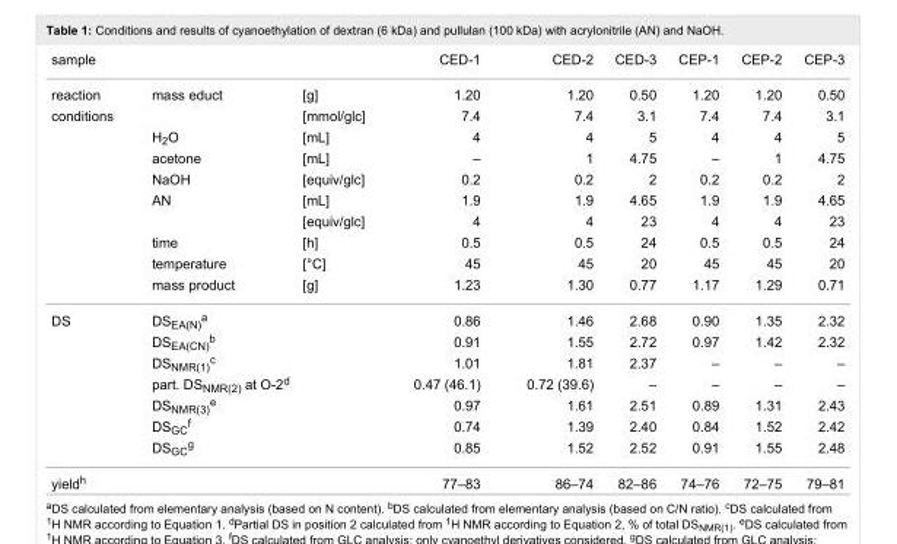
<table><tbody><tr><td>sample</td><td colspan="2"></td><td>CED-1</td><td>CED-2</td><td>CED-3</td><td>CEP-1</td><td>CEP-2</td><td>CEP-3</td></tr><tr><td>reaction</td><td>mass educt</td><td>[g]</td><td>1.20</td><td>1.20</td><td>0.50</td><td>1.20</td><td>1.20</td><td>0.50</td></tr><tr><td rowspan="9">conditions</td><td></td><td>[mmol/glc]</td><td>7.4</td><td>7.4</td><td>3.1</td><td>7.4</td><td>7.4</td><td>3.1</td></tr><tr><td>H<sub>2</sub>O</td><td>[mL]</td><td>4</td><td>4</td><td>5</td><td>4</td><td>4</td><td>5</td></tr><tr><td>acetone</td><td>[mL]</td><td>–</td><td>1</td><td>4.75</td><td>–</td><td>1</td><td>4.75</td></tr><tr><td>NaOH</td><td>[equiv/glc]</td><td>0.2</td><td>0.2</td><td>2</td><td>0.2</td><td>0.2</td><td>2</td></tr><tr><td>AN</td><td>[mL]</td><td>1.9</td><td>1.9</td><td>4.65</td><td>1.9</td><td>1.9</td><td>4.65</td></tr><tr><td></td><td>[equiv/glc]</td><td>4</td><td>4</td><td>23</td><td>4</td><td>4</td><td>23</td></tr><tr><td>time</td><td>[h]</td><td>0.5</td><td>0.5</td><td>24</td><td>0.5</td><td>0.5</td><td>24</td></tr><tr><td>temperature</td><td>[°C]</td><td>45</td><td>45</td><td>20</td><td>45</td><td>45</td><td>20</td></tr><tr><td>mass product</td><td>[g]</td><td>1.23</td><td>1.30</td><td>0.77</td><td>1.17</td><td>1.29</td><td>0.71</td></tr><tr><td rowspan="7">DS</td><td>DS<sub>EA(N)</sub><sup>a</sup></td><td></td><td>0.86</td><td>1.46</td><td>2.68</td><td>0.90</td><td>1.35</td><td>2.32</td></tr><tr><td>DS<sub>EA(CN)</sub><sup>b</sup></td><td></td><td>0.91</td><td>1.55</td><td>2.72</td><td>0.97</td><td>1.42</td><td>2.32</td></tr><tr><td>DS<sub>NMR(1)</sub><sup>c</sup></td><td></td><td>1.01</td><td>1.81</td><td>2.37</td><td>–</td><td>–</td><td>–</td></tr><tr><td>part. DS<sub>NMR(2)</sub> at O-2<sup>d</sup></td><td></td><td>0.47 (46.1)</td><td>0.72 (39.6)</td><td>–</td><td>–</td><td>–</td><td>–</td></tr><tr><td>DS<sub>NMR(3)</sub><sup>e</sup></td><td></td><td>0.97</td><td>1.61</td><td>2.51</td><td>0.89</td><td>1.31</td><td>2.43</td></tr><tr><td>DS<sub>GC</sub><sup>f</sup></td><td></td><td>0.74</td><td>1.39</td><td>2.40</td><td>0.84</td><td>1.52</td><td>2.42</td></tr><tr><td>DS<sub>GC</sub><sup>g</sup></td><td></td><td>0.85</td><td>1.52</td><td>2.52</td><td>0.91</td><td>1.55</td><td>2.48</td></tr><tr><td>yield<sup>h</sup></td><td></td><td></td><td>77–83</td><td>86–74</td><td>82–86</td><td>74–76</td><td>72–75</td><td>79–81</td></tr></tbody></table>